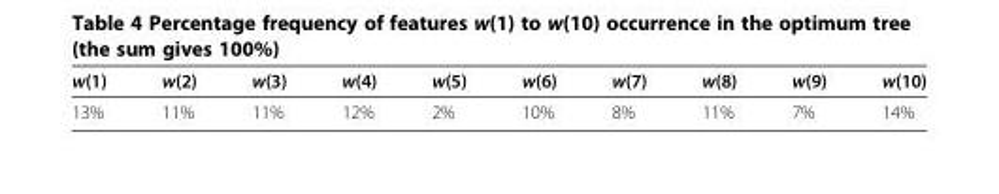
<table><thead><tr><td>w(1)</td><td>w(2)</td><td>w(3)</td><td>w(4)</td><td>w(5)</td><td>w(6)</td><td>w(7)</td><td>w(8)</td><td>w(9)</td><td>w(10)</td></tr></thead><tbody><tr><td>13%</td><td>11%</td><td>11%</td><td>12%</td><td>2%</td><td>10%</td><td>8%</td><td>11%</td><td>7%</td><td>14%</td></tr></tbody></table>